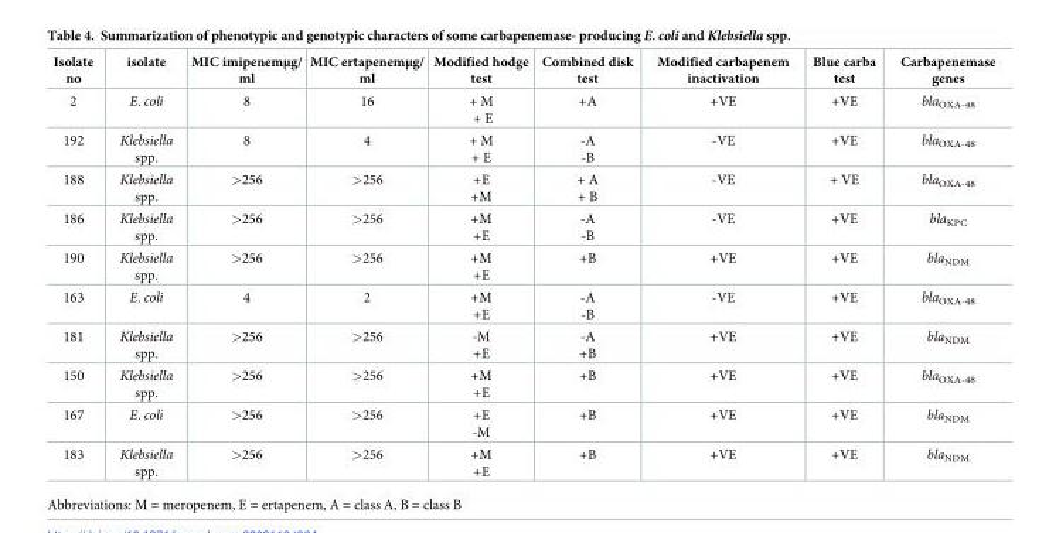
<table><thead><tr><td>Isolate no</td><td>isolate</td><td>MIC imipenemμg/ ml</td><td>MIC ertapenemμg/ ml</td><td>Modified hodge test</td><td>Combined disk test</td><td>Modified carbapenem inactivation</td><td>Blue carba test</td><td>Carbapenemase genes</td></tr></thead><tbody><tr><td>2</td><td>E. coli</td><td>8</td><td>16</td><td>+ M + E</td><td>+A</td><td>+VE</td><td>+VE</td><td>bla<sub>OXA-48</sub></td></tr><tr><td>192</td><td>Klebsiella spp.</td><td>8</td><td>4</td><td>+ M + E</td><td>-A -B</td><td>-VE</td><td>+VE</td><td>bla<sub>OXA-48</sub></td></tr><tr><td>188</td><td>Klebsiella spp.</td><td>&gt;256</td><td>&gt;256</td><td>+E +M</td><td>+ A + B</td><td>-VE</td><td>+ VE</td><td>bla<sub>OXA-48</sub></td></tr><tr><td>186</td><td>Klebsiella spp.</td><td>&gt;256</td><td>&gt;256</td><td>+M +E</td><td>-A -B</td><td>-VE</td><td>+VE</td><td>bla<sub>KPC</sub></td></tr><tr><td>190</td><td>Klebsiella spp.</td><td>&gt;256</td><td>&gt;256</td><td>+M +E</td><td>+B</td><td>+VE</td><td>+VE</td><td>bla<sub>NDM</sub></td></tr><tr><td>163</td><td>E. coli</td><td>4</td><td>2</td><td>+M +E</td><td>-A -B</td><td>-VE</td><td>+VE</td><td>bla<sub>OXA-48</sub></td></tr><tr><td>181</td><td>Klebsiella spp.</td><td>&gt;256</td><td>&gt;256</td><td>-M +E</td><td>-A +B</td><td>+VE</td><td>+VE</td><td>bla<sub>NDM</sub></td></tr><tr><td>150</td><td>Klebsiella spp.</td><td>&gt;256</td><td>&gt;256</td><td>+M +E</td><td>+B</td><td>+VE</td><td>+VE</td><td>bla<sub>OXA-48</sub></td></tr><tr><td>167</td><td>E. coli</td><td>&gt;256</td><td>&gt;256</td><td>+E -M</td><td>+B</td><td>+VE</td><td>+VE</td><td>bla<sub>NDM</sub></td></tr><tr><td>183</td><td>Klebsiella spp.</td><td>&gt;256</td><td>&gt;256</td><td>+M +E</td><td>+B</td><td>+VE</td><td>+VE</td><td>bla<sub>NDM</sub></td></tr></tbody></table>